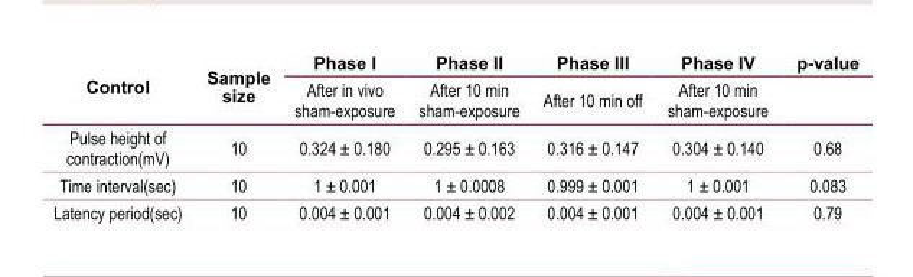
<table><thead><tr><td rowspan="2">Control</td><td rowspan="2">Sample size</td><td rowspan="2">Phase I After in vivo sham-exposure</td><td rowspan="2">Phase II After 10 min sham-exposure</td><td rowspan="2">Phase III After 10 min off</td><td rowspan="2">Phase IV After 10 min sham-exposure</td><td rowspan="2">p-value</td></tr><tr></tr></thead><tbody><tr><td>Pulse height of contraction(mV)</td><td>10</td><td>0.324 ± 0.180</td><td>0.295 ± 0.163</td><td>0.316 ± 0.147</td><td>0.304 ± 0.140</td><td>0.68</td></tr><tr><td>Time interval(sec)</td><td>10</td><td>1 ± 0.001</td><td>1 ± 0.0008</td><td>0.999 ± 0.001</td><td>1 ± 0.001</td><td>0.083</td></tr><tr><td>Latency period(sec)</td><td>10</td><td>0.004 ± 0.001</td><td>0.004 ± 0.002</td><td>0.004 ± 0.001</td><td>0.004 ± 0.001</td><td>0.79</td></tr></tbody></table>